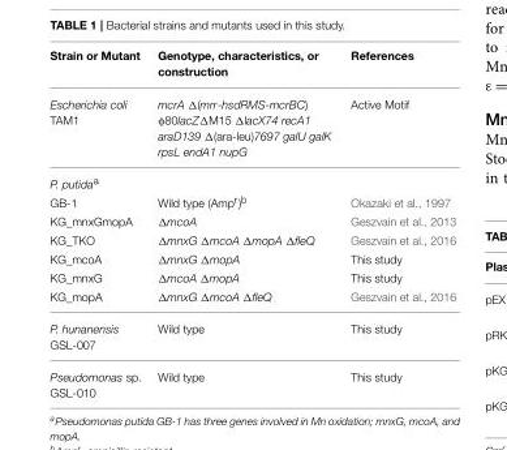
<table><thead><tr><td>Strain or Mutant</td><td>Genotype, characteristics, or construction</td><td>References</td></tr></thead><tbody><tr><td>Escherichia coli TAM1</td><td>mcrA Δ(mrr-hsdRMS-mcrBC) φ80lacZΔM15 ΔlacX74 recA1 araD139 Δ(ara-leu)7697 galU galK rpsL endA1 nupG</td><td>Active Motif</td></tr><tr><td colspan="3">P. putida<sup>a</sup></td></tr><tr><td>GB-1</td><td>Wild type (Amp<sup>r</sup>)<sup>b</sup></td><td>Okazaki et al., 1997</td></tr><tr><td>KG_mnxGmopA</td><td>ΔmcoA</td><td>Geszvain et al., 2013</td></tr><tr><td>KG_TKO</td><td>ΔmnxG ΔmcoA ΔmopA ΔfleQ</td><td>Geszvain et al., 2016</td></tr><tr><td>KG_mcoA</td><td>ΔmnxG ΔmopA</td><td>This study</td></tr><tr><td>KG_mnxG</td><td>ΔmcoA ΔmopA</td><td>This study</td></tr><tr><td>KG_mopA</td><td>ΔmnxG ΔmcoA ΔfleQ</td><td>Geszvain et al., 2016</td></tr><tr><td>P. hunanensis GSL-007</td><td>Wild type</td><td>This study</td></tr><tr><td>Pseudomonas sp. GSL-010</td><td>Wild type</td><td>This study</td></tr></tbody></table>